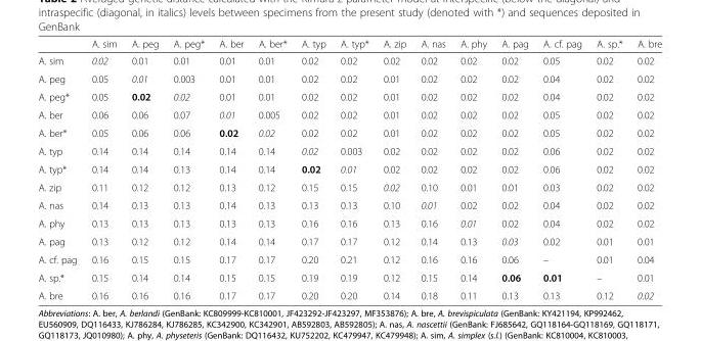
<table><thead><tr><td></td><td>A. sim</td><td>A. peg</td><td>A. peg*</td><td>A. ber</td><td>A. ber*</td><td>A. typ</td><td>A. typ*</td><td>A. zip</td><td>A. nas</td><td>A. phy</td><td>A. pag</td><td>A. cf. pag</td><td>A. sp.*</td><td>A. bre</td></tr></thead><tbody><tr><td>A. sim</td><td>0.02</td><td>0.01</td><td>0.01</td><td>0.01</td><td>0.01</td><td>0.02</td><td>0.02</td><td>0.02</td><td>0.02</td><td>0.02</td><td>0.02</td><td>0.05</td><td>0.02</td><td>0.02</td></tr><tr><td>A. peg</td><td>0.05</td><td>0.01</td><td>0.003</td><td>0.01</td><td>0.01</td><td>0.02</td><td>0.02</td><td>0.01</td><td>0.02</td><td>0.02</td><td>0.02</td><td>0.04</td><td>0.02</td><td>0.02</td></tr><tr><td>A. peg*</td><td>0.05</td><td>0.02</td><td>0.02</td><td>0.01</td><td>0.01</td><td>0.02</td><td>0.02</td><td>0.01</td><td>0.02</td><td>0.02</td><td>0.02</td><td>0.04</td><td>0.02</td><td>0.02</td></tr><tr><td>A. ber</td><td>0.06</td><td>0.06</td><td>0.07</td><td>0.01</td><td>0.005</td><td>0.02</td><td>0.02</td><td>0.01</td><td>0.02</td><td>0.02</td><td>0.02</td><td>0.05</td><td>0.02</td><td>0.02</td></tr><tr><td>A. ber*</td><td>0.05</td><td>0.06</td><td>0.06</td><td>0.02</td><td>0.02</td><td>0.02</td><td>0.02</td><td>0.01</td><td>0.02</td><td>0.02</td><td>0.02</td><td>0.05</td><td>0.02</td><td>0.02</td></tr><tr><td>A. typ</td><td>0.14</td><td>0.14</td><td>0.14</td><td>0.14</td><td>0.14</td><td>0.02</td><td>0.003</td><td>0.02</td><td>0.02</td><td>0.02</td><td>0.02</td><td>0.06</td><td>0.02</td><td>0.02</td></tr><tr><td>A. typ*</td><td>0.14</td><td>0.14</td><td>0.13</td><td>0.14</td><td>0.14</td><td>0.02</td><td>0.01</td><td>0.02</td><td>0.02</td><td>0.02</td><td>0.02</td><td>0.06</td><td>0.02</td><td>0.02</td></tr><tr><td>A. zip</td><td>0.11</td><td>0.12</td><td>0.12</td><td>0.13</td><td>0.12</td><td>0.15</td><td>0.15</td><td>0.02</td><td>0.10</td><td>0.01</td><td>0.01</td><td>0.03</td><td>0.02</td><td>0.02</td></tr><tr><td>A. nas</td><td>0.14</td><td>0.13</td><td>0.13</td><td>0.14</td><td>0.13</td><td>0.13</td><td>0.13</td><td>0.10</td><td>0.01</td><td>0.02</td><td>0.02</td><td>0.04</td><td>0.02</td><td>0.02</td></tr><tr><td>A. phy</td><td>0.13</td><td>0.13</td><td>0.13</td><td>0.13</td><td>0.13</td><td>0.16</td><td>0.16</td><td>0.13</td><td>0.16</td><td>0.01</td><td>0.02</td><td>0.04</td><td>0.02</td><td>0.02</td></tr><tr><td>A. pag</td><td>0.13</td><td>0.12</td><td>0.12</td><td>0.14</td><td>0.14</td><td>0.17</td><td>0.17</td><td>0.12</td><td>0.14</td><td>0.13</td><td>0.03</td><td>0.02</td><td>0.01</td><td>0.01</td></tr><tr><td>A. cf. pag</td><td>0.16</td><td>0.15</td><td>0.15</td><td>0.17</td><td>0.17</td><td>0.20</td><td>0.21</td><td>0.12</td><td>0.16</td><td>0.16</td><td>0.06</td><td>–</td><td>0.01</td><td>0.04</td></tr><tr><td>A. sp.*</td><td>0.15</td><td>0.14</td><td>0.14</td><td>0.15</td><td>0.15</td><td>0.19</td><td>0.19</td><td>0.12</td><td>0.15</td><td>0.14</td><td>0.06</td><td>0.01</td><td>–</td><td>0.01</td></tr><tr><td>A. bre</td><td>0.16</td><td>0.16</td><td>0.16</td><td>0.17</td><td>0.17</td><td>0.20</td><td>0.20</td><td>0.14</td><td>0.18</td><td>0.11</td><td>0.13</td><td>0.13</td><td>0.12</td><td>0.02</td></tr></tbody></table>